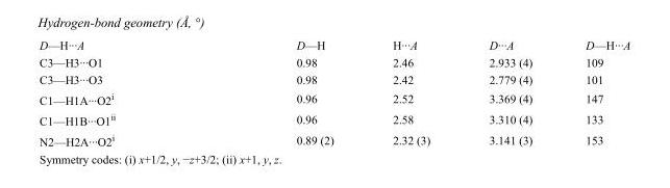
<table><tbody><tr><td>D—H···A</td><td>D—H</td><td>H···A</td><td>D···A</td><td>D—H···A</td></tr><tr><td>C3—H3···O1</td><td>0.98</td><td>2.46</td><td>2.933 (4)</td><td>109</td></tr><tr><td>C3—H3···O3</td><td>0.98</td><td>2.42</td><td>2.779 (4)</td><td>101</td></tr><tr><td>C1—H1A···O2<sup>i</sup></td><td>0.96</td><td>2.52</td><td>3.369 (4)</td><td>147</td></tr><tr><td>C1—H1B···O1<sup>ii</sup></td><td>0.96</td><td>2.58</td><td>3.310 (4)</td><td>133</td></tr><tr><td>N2—H2A···O2<sup>i</sup></td><td>0.89 (2)</td><td>2.32 (3)</td><td>3.141 (3)</td><td>153</td></tr></tbody></table>